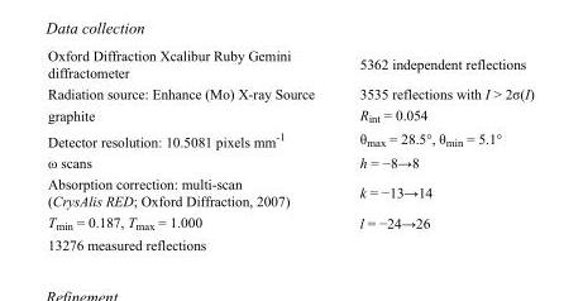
<table><tbody><tr><td>Oxford Diffraction Xcalibur Ruby Gemini diffractometer</td><td>5362 independent reflections</td></tr><tr><td>Radiation source: Enhance (Mo) X-ray Source</td><td>3535 reflections with I &gt; 2σ(I)</td></tr><tr><td>graphite</td><td>R<sub>int</sub> = 0.054</td></tr><tr><td>Detector resolution: 10.5081 pixels mm<sup>-1</sup></td><td>θ<sub>max</sub> = 28.5°, θ<sub>min</sub> = 5.1°</td></tr><tr><td>ω scans</td><td>h = −8→8</td></tr><tr><td>Absorption correction: multi-scan (CrysAlis RED; Oxford Diffraction, 2007)</td><td>k = −13→14</td></tr><tr><td>T<sub>min</sub> = 0.187, T<sub>max</sub> = 1.000</td><td>l = −24→26</td></tr><tr><td>13276 measured reflections</td><td></td></tr></tbody></table>